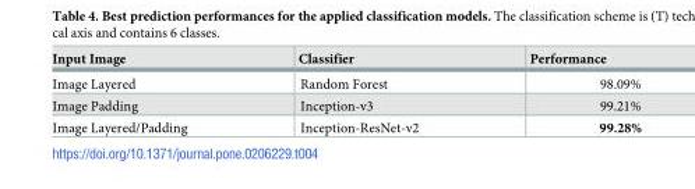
<table><thead><tr><td>Input Image</td><td>Classifier</td><td>Performance</td></tr></thead><tbody><tr><td>Image Layered</td><td>Random Forest</td><td>98.09%</td></tr><tr><td>Image Padding</td><td>Inception-v3</td><td>99.21%</td></tr><tr><td>Image Layered/Padding</td><td>Inception-ResNet-v2</td><td>99.28%</td></tr></tbody></table>